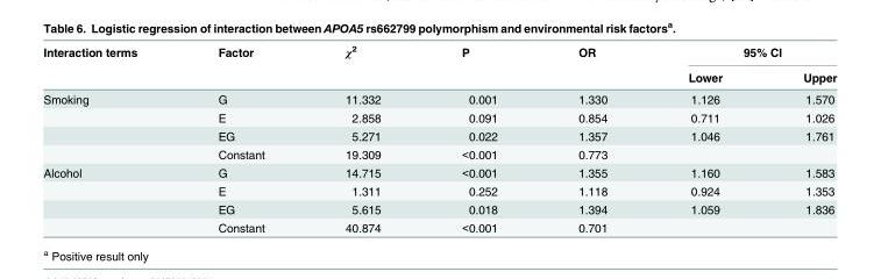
<table><thead><tr><td rowspan="2">Interaction terms</td><td rowspan="2">Factor</td><td rowspan="2">χ<sup>2</sup></td><td rowspan="2">P</td><td rowspan="2">OR</td><td colspan="2">95% CI</td></tr><tr><td>Lower</td><td>Upper</td></tr></thead><tbody><tr><td rowspan="4">Smoking</td><td>G</td><td>11.332</td><td>0.001</td><td>1.330</td><td>1.126</td><td>1.570</td></tr><tr><td>E</td><td>2.858</td><td>0.091</td><td>0.854</td><td>0.711</td><td>1.026</td></tr><tr><td>EG</td><td>5.271</td><td>0.022</td><td>1.357</td><td>1.046</td><td>1.761</td></tr><tr><td>Constant</td><td>19.309</td><td>&lt;0.001</td><td>0.773</td><td></td><td></td></tr><tr><td rowspan="4">Alcohol</td><td>G</td><td>14.715</td><td>&lt;0.001</td><td>1.355</td><td>1.160</td><td>1.583</td></tr><tr><td>E</td><td>1.311</td><td>0.252</td><td>1.118</td><td>0.924</td><td>1.353</td></tr><tr><td>EG</td><td>5.615</td><td>0.018</td><td>1.394</td><td>1.059</td><td>1.836</td></tr><tr><td>Constant</td><td>40.874</td><td>&lt;0.001</td><td>0.701</td><td></td><td></td></tr></tbody></table>